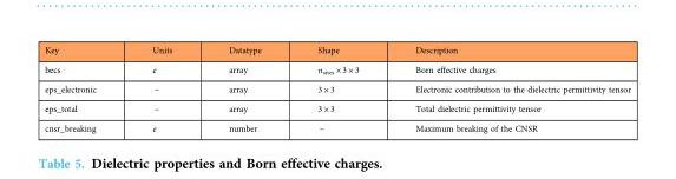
<table><thead><tr><td>Key</td><td>Units</td><td>Datatype</td><td>Shape</td><td>Description</td></tr></thead><tbody><tr><td>becs</td><td>e</td><td>array</td><td>n<sub>sites</sub> × 3 × 3</td><td>Born effective charges</td></tr><tr><td>eps_electronic</td><td>−</td><td>array</td><td>3 × 3</td><td>Electronic contribution to the dielectric permittivity tensor</td></tr><tr><td>eps_total</td><td>−</td><td>array</td><td>3 × 3</td><td>Total dielectric permittivity tensor</td></tr><tr><td>cnsr_breaking</td><td>e</td><td>number</td><td>−</td><td>Maximum breaking of the CNSR</td></tr></tbody></table>